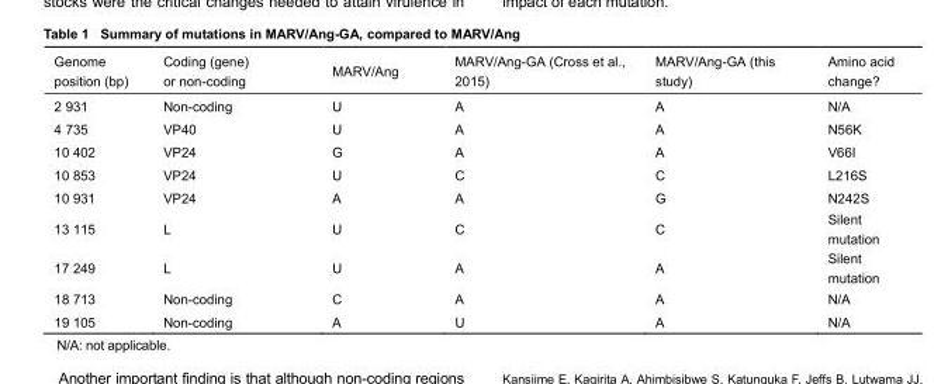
<table><thead><tr><td>Genome position (bp)</td><td>Coding (gene) or non-coding</td><td>MARV/Ang</td><td>MARV/Ang-GA (Cross et al., 2015)</td><td>MARV/Ang-GA (this study)</td><td>Amino acid change?</td></tr></thead><tbody><tr><td>2 931</td><td>Non-coding</td><td>U</td><td>A</td><td>A</td><td>N/A</td></tr><tr><td>4 735</td><td>VP40</td><td>U</td><td>A</td><td>A</td><td>N56K</td></tr><tr><td>10 402</td><td>VP24</td><td>G</td><td>A</td><td>A</td><td>V66I</td></tr><tr><td>10 853</td><td>VP24</td><td>U</td><td>C</td><td>C</td><td>L216S</td></tr><tr><td>10 931</td><td>VP24</td><td>A</td><td>A</td><td>G</td><td>N242S</td></tr><tr><td>13 115</td><td>L</td><td>U</td><td>C</td><td>C</td><td>Silent mutation</td></tr><tr><td>17 249</td><td>L</td><td>U</td><td>A</td><td>A</td><td>Silent mutation</td></tr><tr><td>18 713</td><td>Non-coding</td><td>C</td><td>A</td><td>A</td><td>N/A</td></tr><tr><td>19 105</td><td>Non-coding</td><td>A</td><td>U</td><td>A</td><td>N/A</td></tr></tbody></table>